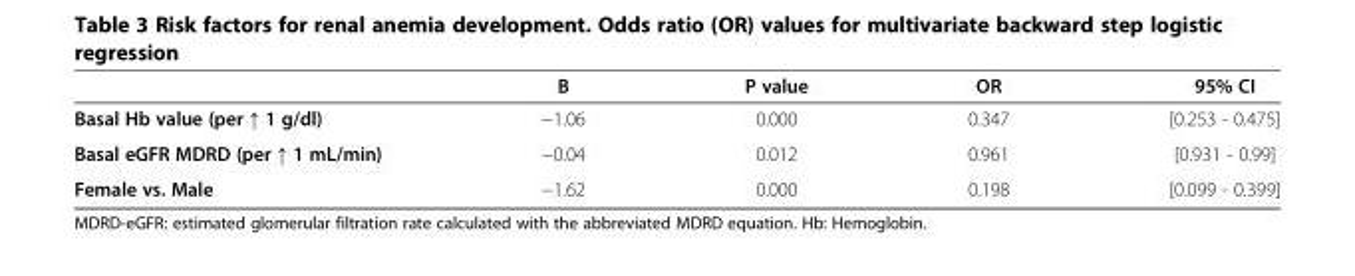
<table><thead><tr><td></td><td>B</td><td>P value</td><td>OR</td><td>95% CI</td></tr></thead><tbody><tr><td>Basal Hb value (per ↑ 1 g/dl)</td><td>−1.06</td><td>0.000</td><td>0.347</td><td>[0.253 - 0.475]</td></tr><tr><td>Basal eGFR MDRD (per ↑ 1 mL/min)</td><td>−0.04</td><td>0.012</td><td>0.961</td><td>[0.931 - 0.99]</td></tr><tr><td>Female vs. Male</td><td>−1.62</td><td>0.000</td><td>0.198</td><td>[0.099 - 0.399]</td></tr></tbody></table>